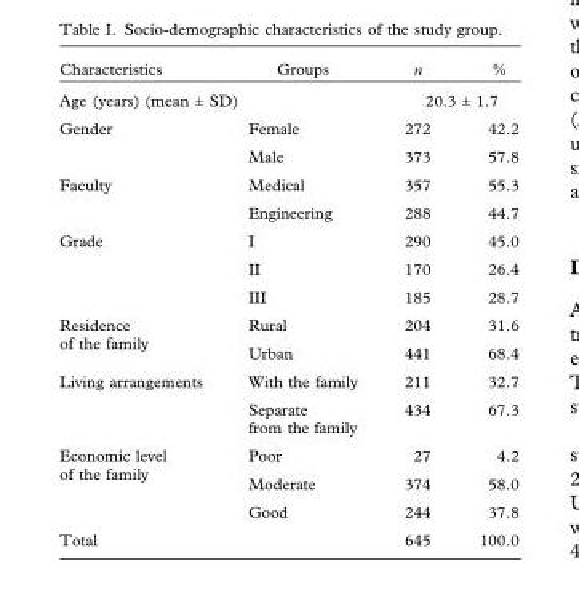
<table><thead><tr><td>Characteristics</td><td>Groups</td><td>n</td><td>%</td></tr></thead><tbody><tr><td colspan="2">Age (years) (mean ± SD)</td><td colspan="2">20.3 ± 1.7</td></tr><tr><td rowspan="2">Gender</td><td>Female</td><td>272</td><td>42.2</td></tr><tr><td>Male</td><td>373</td><td>57.8</td></tr><tr><td rowspan="2">Faculty</td><td>Medical</td><td>357</td><td>55.3</td></tr><tr><td>Engineering</td><td>288</td><td>44.7</td></tr><tr><td rowspan="3">Grade</td><td>I</td><td>290</td><td>45.0</td></tr><tr><td>II</td><td>170</td><td>26.4</td></tr><tr><td>III</td><td>185</td><td>28.7</td></tr><tr><td rowspan="2">Residence of the family</td><td>Rural</td><td>204</td><td>31.6</td></tr><tr><td>Urban</td><td>441</td><td>68.4</td></tr><tr><td rowspan="2">Living arrangements</td><td>With the family</td><td>211</td><td>32.7</td></tr><tr><td>Separate from the family</td><td>434</td><td>67.3</td></tr><tr><td rowspan="3">Economic level of the family</td><td>Poor</td><td>27</td><td>4.2</td></tr><tr><td>Moderate</td><td>374</td><td>58.0</td></tr><tr><td>Good</td><td>244</td><td>37.8</td></tr><tr><td>Total</td><td></td><td>645</td><td>100.0</td></tr></tbody></table>